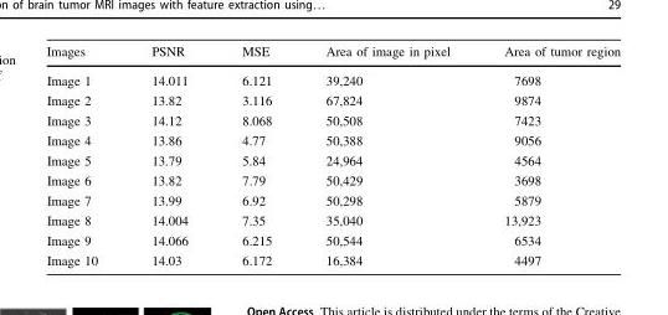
<table><thead><tr><td>Images</td><td>PSNR</td><td>MSE</td><td>Area of image in pixel</td><td>Area of tumor region</td></tr></thead><tbody><tr><td>Image 1</td><td>14.011</td><td>6.121</td><td>39,240</td><td>7698</td></tr><tr><td>Image 2</td><td>13.82</td><td>3.116</td><td>67,824</td><td>9874</td></tr><tr><td>Image 3</td><td>14.12</td><td>8.068</td><td>50,508</td><td>7423</td></tr><tr><td>Image 4</td><td>13.86</td><td>4.77</td><td>50,388</td><td>9056</td></tr><tr><td>Image 5</td><td>13.79</td><td>5.84</td><td>24,964</td><td>4564</td></tr><tr><td>Image 6</td><td>13.82</td><td>7.79</td><td>50,429</td><td>3698</td></tr><tr><td>Image 7</td><td>13.99</td><td>6.92</td><td>50,298</td><td>5879</td></tr><tr><td>Image 8</td><td>14.004</td><td>7.35</td><td>35,040</td><td>13,923</td></tr><tr><td>Image 9</td><td>14.066</td><td>6.215</td><td>50,544</td><td>6534</td></tr><tr><td>Image 10</td><td>14.03</td><td>6.172</td><td>16,384</td><td>4497</td></tr></tbody></table>